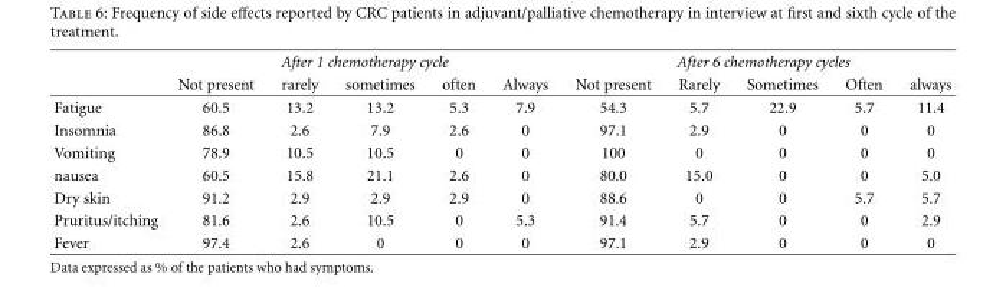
<table><thead><tr><td rowspan="2"></td><td colspan="5">After 1 chemotherapy cycle</td><td colspan="5">After 6 chemotherapy cycles</td></tr><tr><td>Not present</td><td>rarely</td><td>sometimes</td><td>often</td><td>Always</td><td>Not present</td><td>Rarely</td><td>Sometimes</td><td>Often</td><td>always</td></tr></thead><tbody><tr><td>Fatigue</td><td>60.5</td><td>13.2</td><td>13.2</td><td>5.3</td><td>7.9</td><td>54.3</td><td>5.7</td><td>22.9</td><td>5.7</td><td>11.4</td></tr><tr><td>Insomnia</td><td>86.8</td><td>2.6</td><td>7.9</td><td>2.6</td><td>0</td><td>97.1</td><td>2.9</td><td>0</td><td>0</td><td>0</td></tr><tr><td>Vomiting</td><td>78.9</td><td>10.5</td><td>10.5</td><td>0</td><td>0</td><td>100</td><td>0</td><td>0</td><td>0</td><td>0</td></tr><tr><td>nausea</td><td>60.5</td><td>15.8</td><td>21.1</td><td>2.6</td><td>0</td><td>80.0</td><td>15.0</td><td>0</td><td>0</td><td>5.0</td></tr><tr><td>Dry skin</td><td>91.2</td><td>2.9</td><td>2.9</td><td>2.9</td><td>0</td><td>88.6</td><td>0</td><td>0</td><td>5.7</td><td>5.7</td></tr><tr><td>Pruritus/itching</td><td>81.6</td><td>2.6</td><td>10.5</td><td>0</td><td>5.3</td><td>91.4</td><td>5.7</td><td>0</td><td>0</td><td>2.9</td></tr><tr><td>Fever</td><td>97.4</td><td>2.6</td><td>0</td><td>0</td><td>0</td><td>97.1</td><td>2.9</td><td>0</td><td>0</td><td>0</td></tr></tbody></table>